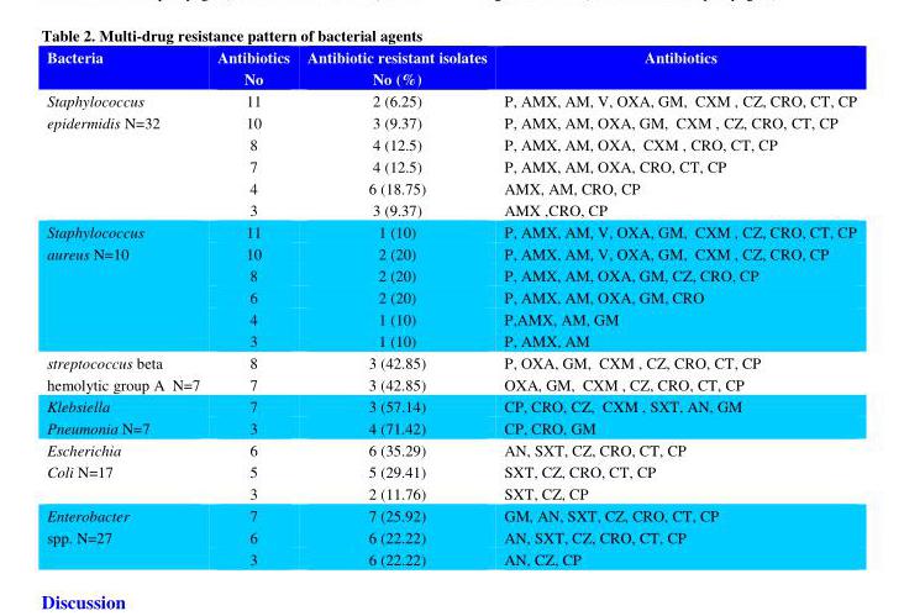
<table><thead><tr><td>Bacteria</td><td>Antibiotics No</td><td>Antibiotic resistant isolates No (%)</td><td>Antibiotics</td></tr></thead><tbody><tr><td rowspan="6">Staphylococcus epidermidis N=32</td><td>11</td><td>2 (6.25)</td><td>P, AMX, AM, V, OXA, GM, CXM , CZ, CRO, CT, CP</td></tr><tr><td>10</td><td>3 (9.37)</td><td>P, AMX, AM, OXA, GM, CXM , CZ, CRO, CT, CP</td></tr><tr><td>8</td><td>4 (12.5)</td><td>P, AMX, AM, OXA, CXM , CRO, CT, CP</td></tr><tr><td>7</td><td>4 (12.5)</td><td>P, AMX, AM, OXA, CRO, CT, CP</td></tr><tr><td>4</td><td>6 (18.75)</td><td>AMX, AM, CRO, CP</td></tr><tr><td>3</td><td>3 (9.37)</td><td>AMX ,CRO, CP</td></tr><tr><td rowspan="6">Staphylococcus aureus N=10</td><td>11</td><td>1 (10)</td><td>P, AMX, AM, V, OXA, GM, CXM , CZ, CRO, CT, CP</td></tr><tr><td>10</td><td>2 (20)</td><td>P, AMX, AM, V, OXA, GM, CXM , CZ, CRO, CP</td></tr><tr><td>8</td><td>2 (20)</td><td>P, AMX, AM, OXA, GM, CZ, CRO, CP</td></tr><tr><td>6</td><td>2 (20)</td><td>P, AMX, AM, OXA, GM, CRO</td></tr><tr><td>4</td><td>1 (10)</td><td>P,AMX, AM, GM</td></tr><tr><td>3</td><td>1 (10)</td><td>P, AMX, AM</td></tr><tr><td rowspan="2">streptococcus beta hemolytic group A N=7</td><td>8</td><td>3 (42.85)</td><td>P, OXA, GM, CXM , CZ, CRO, CT, CP</td></tr><tr><td>7</td><td>3 (42.85)</td><td>OXA, GM, CXM , CZ, CRO, CT, CP</td></tr><tr><td rowspan="2">Klebsiella Pneumonia N=7</td><td>7</td><td>3 (57.14)</td><td>CP, CRO, CZ, CXM , SXT, AN, GM</td></tr><tr><td>3</td><td>4 (71.42)</td><td>CP, CRO, GM</td></tr><tr><td rowspan="3">Escherichia Coli N=17</td><td>6</td><td>6 (35.29)</td><td>AN, SXT, CZ, CRO, CT, CP</td></tr><tr><td>5</td><td>5 (29.41)</td><td>SXT, CZ, CRO, CT, CP</td></tr><tr><td>3</td><td>2 (11.76)</td><td>SXT, CZ, CP</td></tr><tr><td rowspan="3">Enterobacter spp. N=27</td><td>7</td><td>7 (25.92)</td><td>GM, AN, SXT, CZ, CRO, CT, CP</td></tr><tr><td>6</td><td>6 (22.22)</td><td>AN, SXT, CZ, CRO, CT, CP</td></tr><tr><td>3</td><td>6 (22.22)</td><td>AN, CZ, CP</td></tr></tbody></table>